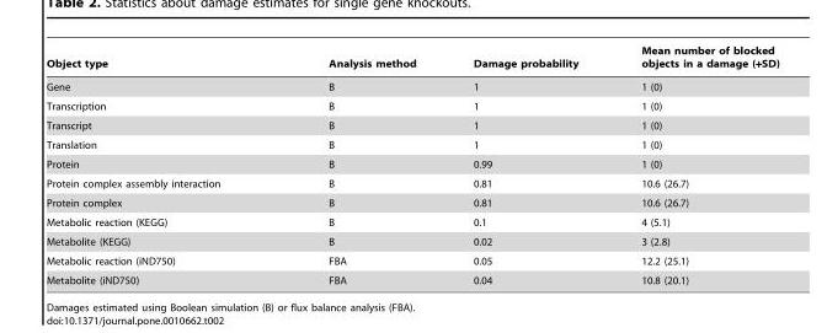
<table><thead><tr><td>Object type</td><td>Analysis method</td><td>Damage probability</td><td>Mean number of blocked objects in a damage (+SD)</td></tr></thead><tbody><tr><td>Gene</td><td>B</td><td>1</td><td>1 (0)</td></tr><tr><td>Transcription</td><td>B</td><td>1</td><td>1 (0)</td></tr><tr><td>Transcript</td><td>B</td><td>1</td><td>1 (0)</td></tr><tr><td>Translation</td><td>B</td><td>1</td><td>1 (0)</td></tr><tr><td>Protein</td><td>B</td><td>0.99</td><td>1 (0)</td></tr><tr><td>Protein complex assembly interaction</td><td>B</td><td>0.81</td><td>10.6 (26.7)</td></tr><tr><td>Protein complex</td><td>B</td><td>0.81</td><td>10.6 (26.7)</td></tr><tr><td>Metabolic reaction (KEGG)</td><td>B</td><td>0.1</td><td>4 (5.1)</td></tr><tr><td>Metabolite (KEGG)</td><td>B</td><td>0.02</td><td>3 (2.8)</td></tr><tr><td>Metabolic reaction (iND750)</td><td>FBA</td><td>0.05</td><td>12.2 (25.1)</td></tr><tr><td>Metabolite (iND750)</td><td>FBA</td><td>0.04</td><td>10.8 (20.1)</td></tr></tbody></table>